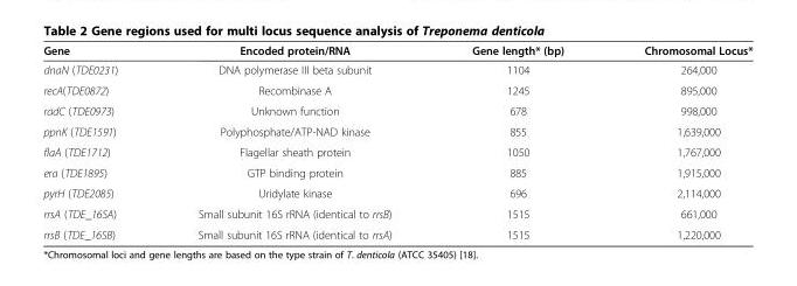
<table><thead><tr><td>Gene</td><td>Encoded protein/RNA</td><td>Gene length* (bp)</td><td>Chromosomal Locus*</td></tr></thead><tbody><tr><td>dnaN (TDE0231)</td><td>DNA polymerase III beta subunit</td><td>1104</td><td>264,000</td></tr><tr><td>recA(TDE0872)</td><td>Recombinase A</td><td>1245</td><td>895,000</td></tr><tr><td>radC (TDE0973)</td><td>Unknown function</td><td>678</td><td>998,000</td></tr><tr><td>ppnK (TDE1591)</td><td>Polyphosphate/ATP-NAD kinase</td><td>855</td><td>1,639,000</td></tr><tr><td>flaA (TDE1712)</td><td>Flagellar sheath protein</td><td>1050</td><td>1,767,000</td></tr><tr><td>era (TDE1895)</td><td>GTP binding protein</td><td>885</td><td>1,915,000</td></tr><tr><td>pyrH (TDE2085)</td><td>Uridylate kinase</td><td>696</td><td>2,114,000</td></tr><tr><td>rrsA (TDE_16SA)</td><td>Small subunit 16S rRNA (identical to rrsB)</td><td>1515</td><td>661,000</td></tr><tr><td>rrsB (TDE_16SB)</td><td>Small subunit 16S rRNA (identical to rrsA)</td><td>1515</td><td>1,220,000</td></tr></tbody></table>